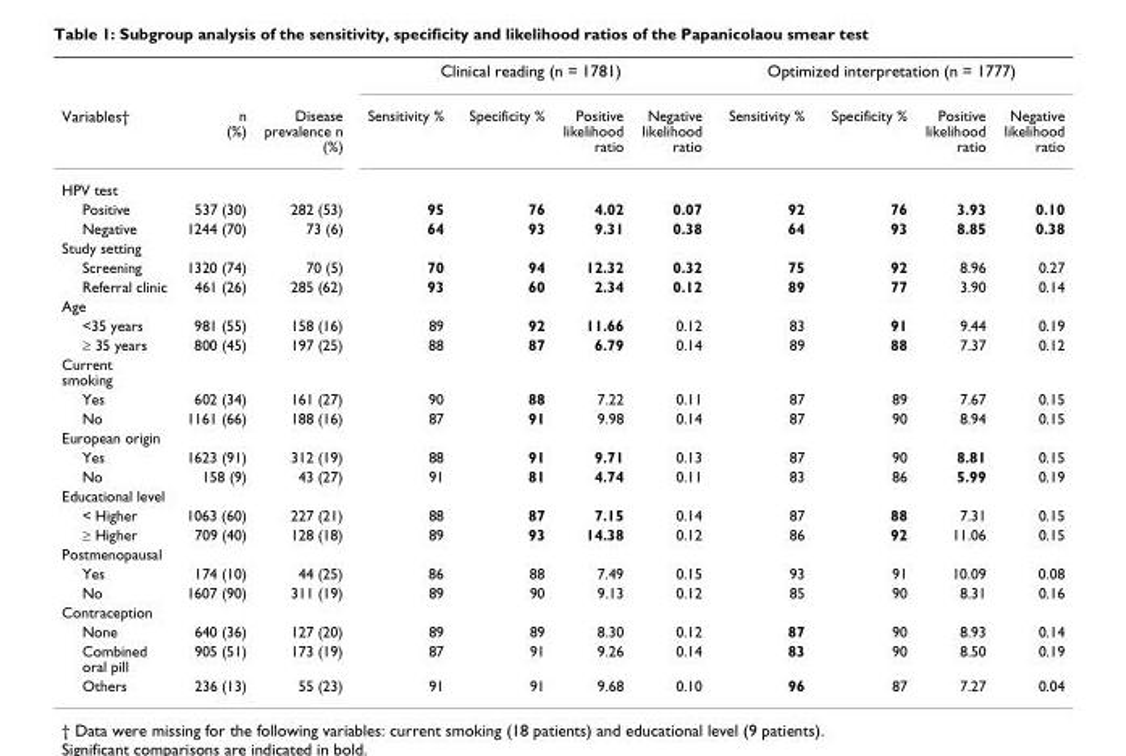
<table><thead><tr><td rowspan="2">Variables†</td><td rowspan="2">n (%)</td><td rowspan="2">Disease prevalence n (%)</td><td colspan="4">Clinical reading (n = 1781)</td><td colspan="4">Optimized interpretation (n = 1777)</td></tr><tr><td>Sensitivity %</td><td>Specificity %</td><td>Positive likelihood ratio</td><td>Negative likelihood ratio</td><td>Sensitivity %</td><td>Specificity %</td><td>Positive likelihood ratio</td><td>Negative likelihood ratio</td></tr></thead><tbody><tr><td colspan="11">HPV test</td></tr><tr><td>Positive</td><td>537 (30)</td><td>282 (53)</td><td>95</td><td>76</td><td>4.02</td><td>0.07</td><td>92</td><td>76</td><td>3.93</td><td>0.10</td></tr><tr><td>Negative</td><td>1244 (70)</td><td>73 (6)</td><td>64</td><td>93</td><td>9.31</td><td>0.38</td><td>64</td><td>93</td><td>8.85</td><td>0.38</td></tr><tr><td colspan="11">Study setting</td></tr><tr><td>Screening</td><td>1320 (74)</td><td>70 (5)</td><td>70</td><td>94</td><td>12.32</td><td>0.32</td><td>75</td><td>92</td><td>8.96</td><td>0.27</td></tr><tr><td>Referral clinic</td><td>461 (26)</td><td>285 (62)</td><td>93</td><td>60</td><td>2.34</td><td>0.12</td><td>89</td><td>77</td><td>3.90</td><td>0.14</td></tr><tr><td colspan="11">Age</td></tr><tr><td>&lt;35 years</td><td>981 (55)</td><td>158 (16)</td><td>89</td><td>92</td><td>11.66</td><td>0.12</td><td>83</td><td>91</td><td>9.44</td><td>0.19</td></tr><tr><td>≥ 35 years</td><td>800 (45)</td><td>197 (25)</td><td>88</td><td>87</td><td>6.79</td><td>0.14</td><td>89</td><td>88</td><td>7.37</td><td>0.12</td></tr><tr><td colspan="11">Current smoking</td></tr><tr><td>Yes</td><td>602 (34)</td><td>161 (27)</td><td>90</td><td>88</td><td>7.22</td><td>0.11</td><td>87</td><td>89</td><td>7.67</td><td>0.15</td></tr><tr><td>No</td><td>1161 (66)</td><td>188 (16)</td><td>87</td><td>91</td><td>9.98</td><td>0.14</td><td>87</td><td>90</td><td>8.94</td><td>0.15</td></tr><tr><td colspan="11">European origin</td></tr><tr><td>Yes</td><td>1623 (91)</td><td>312 (19)</td><td>88</td><td>91</td><td>9.71</td><td>0.13</td><td>87</td><td>90</td><td>8.81</td><td>0.15</td></tr><tr><td>No</td><td>158 (9)</td><td>43 (27)</td><td>91</td><td>81</td><td>4.74</td><td>0.11</td><td>83</td><td>86</td><td>5.99</td><td>0.19</td></tr><tr><td colspan="11">Educational level</td></tr><tr><td>&lt; Higher</td><td>1063 (60)</td><td>227 (21)</td><td>88</td><td>87</td><td>7.15</td><td>0.14</td><td>87</td><td>88</td><td>7.31</td><td>0.15</td></tr><tr><td>≥ Higher</td><td>709 (40)</td><td>128 (18)</td><td>89</td><td>93</td><td>14.38</td><td>0.12</td><td>86</td><td>92</td><td>11.06</td><td>0.15</td></tr><tr><td colspan="11">Postmenopausal</td></tr><tr><td>Yes</td><td>174 (10)</td><td>44 (25)</td><td>86</td><td>88</td><td>7.49</td><td>0.15</td><td>93</td><td>91</td><td>10.09</td><td>0.08</td></tr><tr><td>No</td><td>1607 (90)</td><td>311 (19)</td><td>89</td><td>90</td><td>9.13</td><td>0.12</td><td>85</td><td>90</td><td>8.31</td><td>0.16</td></tr><tr><td colspan="11">Contraception</td></tr><tr><td>None</td><td>640 (36)</td><td>127 (20)</td><td>89</td><td>89</td><td>8.30</td><td>0.12</td><td>87</td><td>90</td><td>8.93</td><td>0.14</td></tr><tr><td>Combined oral pill</td><td>905 (51)</td><td>173 (19)</td><td>87</td><td>91</td><td>9.26</td><td>0.14</td><td>83</td><td>90</td><td>8.50</td><td>0.19</td></tr><tr><td>Others</td><td>236 (13)</td><td>55 (23)</td><td>91</td><td>91</td><td>9.68</td><td>0.10</td><td>96</td><td>87</td><td>7.27</td><td>0.04</td></tr></tbody></table>